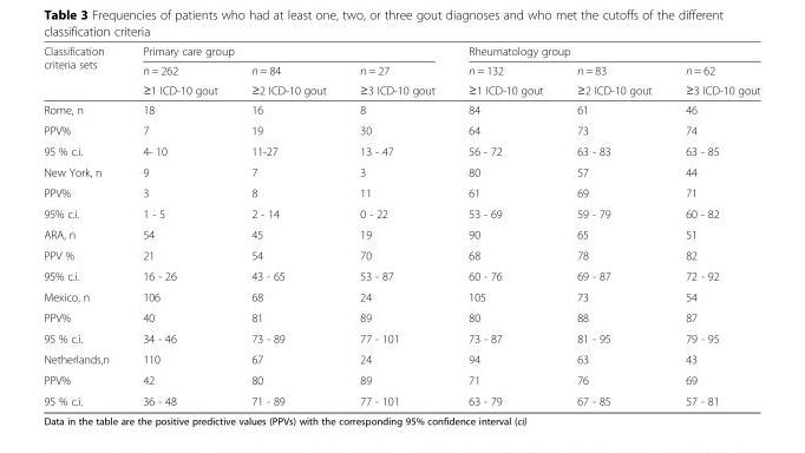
<table><thead><tr><td rowspan="3">Classification criteria sets</td><td colspan="3">Primary care group</td><td colspan="3">Rheumatology group</td></tr><tr><td rowspan="2">n = 262 ≥1 ICD-10 gout</td><td rowspan="2">n = 84 ≥2 ICD-10 gout</td><td rowspan="2">n = 27 ≥3 ICD-10 gout</td><td rowspan="2">n = 132 ≥1 ICD-10 gout</td><td rowspan="2">n = 83 ≥2 ICD-10 gout</td><td rowspan="2">n = 62 ≥3 ICD-10 gout</td></tr><tr></tr></thead><tbody><tr><td>Rome, n</td><td>18</td><td>16</td><td>8</td><td>84</td><td>61</td><td>46</td></tr><tr><td>PPV%</td><td>7</td><td>19</td><td>30</td><td>64</td><td>73</td><td>74</td></tr><tr><td>95 % c.i.</td><td>4- 10</td><td>11-27</td><td>13 - 47</td><td>56 - 72</td><td>63 - 83</td><td>63 - 85</td></tr><tr><td>New York, n</td><td>9</td><td>7</td><td>3</td><td>80</td><td>57</td><td>44</td></tr><tr><td>PPV%</td><td>3</td><td>8</td><td>11</td><td>61</td><td>69</td><td>71</td></tr><tr><td>95% c.i.</td><td>1 - 5</td><td>2 - 14</td><td>0 - 22</td><td>53 - 69</td><td>59 - 79</td><td>60 - 82</td></tr><tr><td>ARA, n</td><td>54</td><td>45</td><td>19</td><td>90</td><td>65</td><td>51</td></tr><tr><td>PPV %</td><td>21</td><td>54</td><td>70</td><td>68</td><td>78</td><td>82</td></tr><tr><td>95% c.i.</td><td>16 - 26</td><td>43 - 65</td><td>53 - 87</td><td>60 - 76</td><td>69 - 87</td><td>72 - 92</td></tr><tr><td>Mexico, n</td><td>106</td><td>68</td><td>24</td><td>105</td><td>73</td><td>54</td></tr><tr><td>PPV%</td><td>40</td><td>81</td><td>89</td><td>80</td><td>88</td><td>87</td></tr><tr><td>95 % c.i.</td><td>34 - 46</td><td>73 - 89</td><td>77 - 101</td><td>73 - 87</td><td>81 - 95</td><td>79 - 95</td></tr><tr><td>Netherlands,n</td><td>110</td><td>67</td><td>24</td><td>94</td><td>63</td><td>43</td></tr><tr><td>PPV%</td><td>42</td><td>80</td><td>89</td><td>71</td><td>76</td><td>69</td></tr><tr><td>95 % c.i.</td><td>36 - 48</td><td>71 - 89</td><td>77 - 101</td><td>63 - 79</td><td>67 - 85</td><td>57 - 81</td></tr></tbody></table>